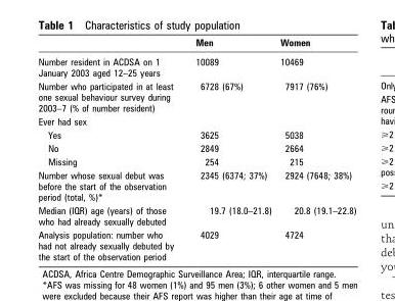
<table><thead><tr><td></td><td>Men</td><td>Women</td></tr></thead><tbody><tr><td>Number resident in ACDSA on 1 January 2003 aged 12–25 years</td><td>10089</td><td>10469</td></tr><tr><td>Number who participated in at least one sexual behaviour survey during 2003–7 (% of number resident)</td><td>6728 (67%)</td><td>7917 (76%)</td></tr><tr><td colspan="3">Ever had sex</td></tr><tr><td>Yes</td><td>3625</td><td>5038</td></tr><tr><td>No</td><td>2849</td><td>2664</td></tr><tr><td>Missing</td><td>254</td><td>215</td></tr><tr><td>Number whose sexual debut was before the start of the observation period (total, %)*</td><td>2345 (6374; 37%)</td><td>2924 (7648; 38%)</td></tr><tr><td>Median (IQR) age (years) of those who had already sexually debuted</td><td>19.7 (18.0–21.8)</td><td>20.8 (19.1–22.8)</td></tr><tr><td>Analysis population: number who had not already sexually debuted by the start of the observation period</td><td>4029</td><td>4724</td></tr></tbody></table>